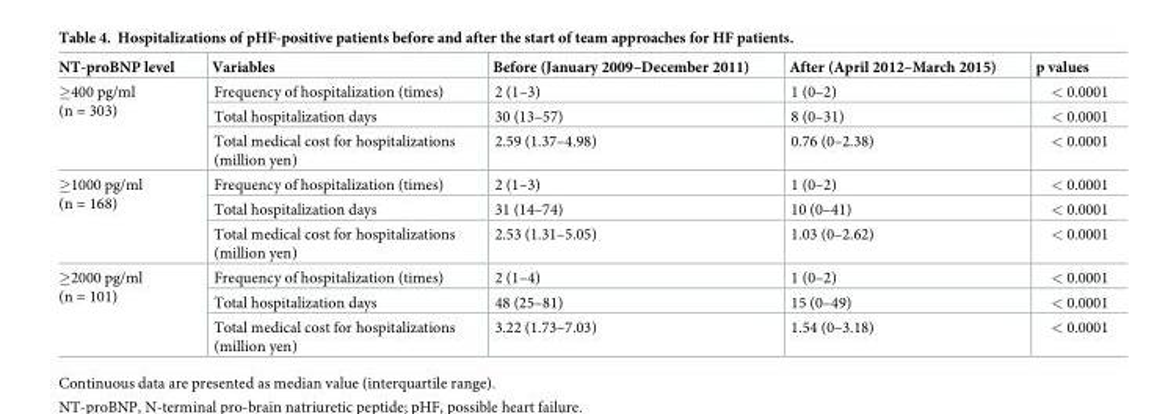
<table><thead><tr><td>NT-proBNP level</td><td>Variables</td><td>Before (January 2009–December 2011)</td><td>After (April 2012–March 2015)</td><td>p values</td></tr></thead><tbody><tr><td rowspan="3">≥400 pg/ml (n = 303)</td><td>Frequency of hospitalization (times)</td><td>2 (1–3)</td><td>1 (0–2)</td><td>&lt; 0.0001</td></tr><tr><td>Total hospitalization days</td><td>30 (13–57)</td><td>8 (0–31)</td><td>&lt; 0.0001</td></tr><tr><td>Total medical cost for hospitalizations (million yen)</td><td>2.59 (1.37–4.98)</td><td>0.76 (0–2.38)</td><td>&lt; 0.0001</td></tr><tr><td rowspan="3">≥1000 pg/ml (n = 168)</td><td>Frequency of hospitalization (times)</td><td>2 (1–3)</td><td>1 (0–2)</td><td>&lt; 0.0001</td></tr><tr><td>Total hospitalization days</td><td>31 (14–74)</td><td>10 (0–41)</td><td>&lt; 0.0001</td></tr><tr><td>Total medical cost for hospitalizations (million yen)</td><td>2.53 (1.31–5.05)</td><td>1.03 (0–2.62)</td><td>&lt; 0.0001</td></tr><tr><td rowspan="3">≥2000 pg/ml (n = 101)</td><td>Frequency of hospitalization (times)</td><td>2 (1–4)</td><td>1 (0–2)</td><td>&lt; 0.0001</td></tr><tr><td>Total hospitalization days</td><td>48 (25–81)</td><td>15 (0–49)</td><td>&lt; 0.0001</td></tr><tr><td>Total medical cost for hospitalizations (million yen)</td><td>3.22 (1.73–7.03)</td><td>1.54 (0–3.18)</td><td>&lt; 0.0001</td></tr></tbody></table>